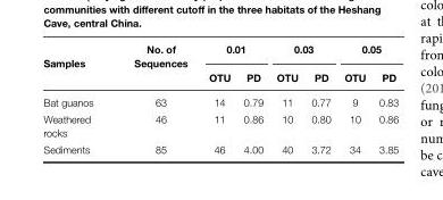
<table><thead><tr><td rowspan="2">Samples</td><td rowspan="2">No. of Sequences</td><td colspan="2">0.01</td><td colspan="2">0.03</td><td colspan="2">0.05</td></tr><tr><td>OTU</td><td>PD</td><td>OTU</td><td>PD</td><td>OTU</td><td>PD</td></tr></thead><tbody><tr><td>Bat guanos</td><td>63</td><td>14</td><td>0.79</td><td>11</td><td>0.77</td><td>9</td><td>0.83</td></tr><tr><td>Weathered rocks</td><td>46</td><td>11</td><td>0.86</td><td>10</td><td>0.80</td><td>10</td><td>0.86</td></tr><tr><td>Sediments</td><td>85</td><td>46</td><td>4.00</td><td>40</td><td>3.72</td><td>34</td><td>3.85</td></tr></tbody></table>